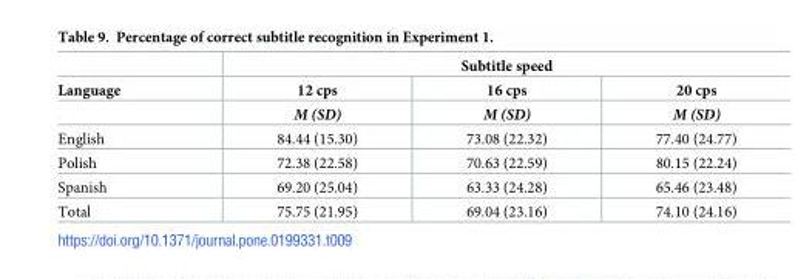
<table><thead><tr><td rowspan="3">Language</td><td colspan="3">Subtitle speed</td></tr><tr><td rowspan="2">12 cps M (SD)</td><td rowspan="2">16 cps M (SD)</td><td rowspan="2">20 cps M (SD)</td></tr><tr></tr></thead><tbody><tr><td>English</td><td>84.44 (15.30)</td><td>73.08 (22.32)</td><td>77.40 (24.77)</td></tr><tr><td>Polish</td><td>72.38 (22.58)</td><td>70.63 (22.59)</td><td>80.15 (22.24)</td></tr><tr><td>Spanish</td><td>69.20 (25.04)</td><td>63.33 (24.28)</td><td>65.46 (23.48)</td></tr><tr><td>Total</td><td>75.75 (21.95)</td><td>69.04 (23.16)</td><td>74.10 (24.16)</td></tr></tbody></table>